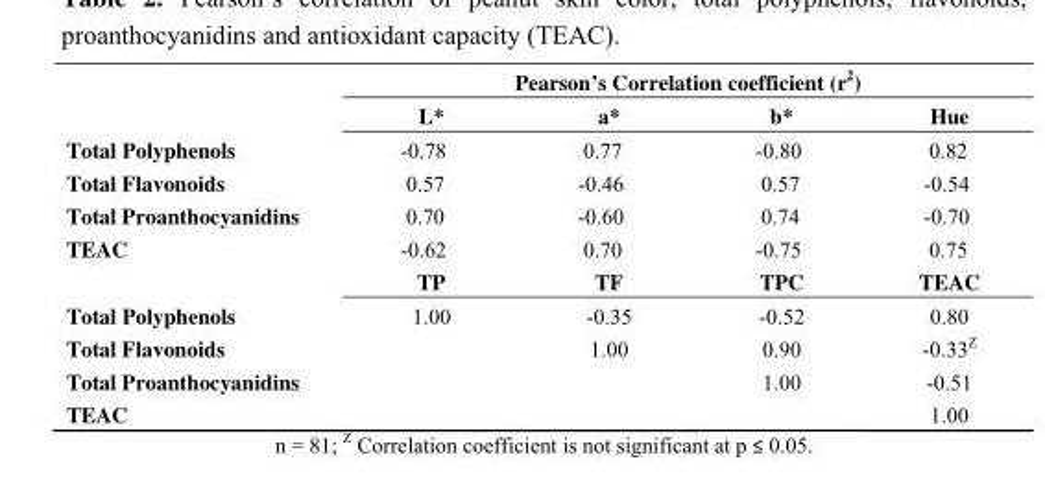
<table><thead><tr><td rowspan="2"></td><td colspan="4">Pearson’s Correlation coefficient (r<sup>2</sup>)</td></tr><tr><td>L*</td><td>a*</td><td>b*</td><td>Hue</td></tr></thead><tbody><tr><td>Total Polyphenols</td><td>-0.78</td><td>0.77</td><td>-0.80</td><td>0.82</td></tr><tr><td>Total Flavonoids</td><td>0.57</td><td>-0.46</td><td>0.57</td><td>-0.54</td></tr><tr><td>Total Proanthocyanidins</td><td>0.70</td><td>-0.60</td><td>0.74</td><td>-0.70</td></tr><tr><td rowspan="2">TEAC</td><td>-0.62</td><td>0.70</td><td>-0.75</td><td>0.75</td></tr><tr><td>TP</td><td>TF</td><td>TPC</td><td>TEAC</td></tr><tr><td>Total Polyphenols</td><td>1.00</td><td>-0.35</td><td>-0.52</td><td>0.80</td></tr><tr><td>Total Flavonoids</td><td></td><td>1.00</td><td>0.90</td><td>-0.33<sup>Z</sup></td></tr><tr><td>Total Proanthocyanidins</td><td></td><td></td><td>1.00</td><td>-0.51</td></tr><tr><td>TEAC</td><td></td><td></td><td></td><td>1.00</td></tr></tbody></table>